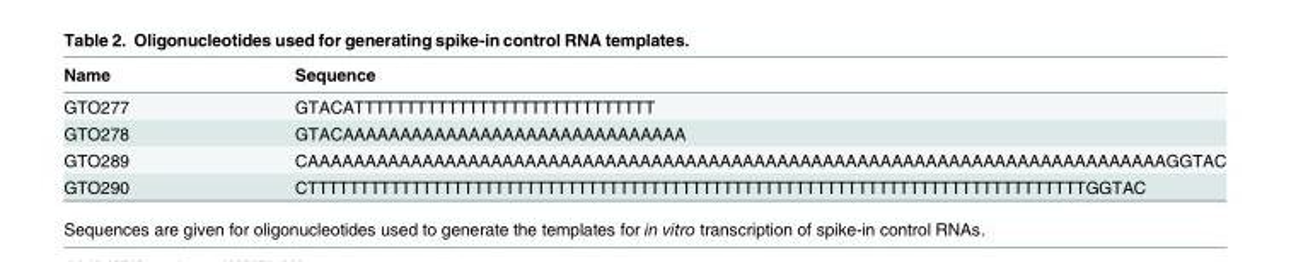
<table><thead><tr><td>Name</td><td>Sequence</td></tr></thead><tbody><tr><td>GTO277</td><td>GTACATTTTTTTTTTTTTTTTTTTTTTTTTTTTT</td></tr><tr><td>GTO278</td><td>GTACAAAAAAAAAAAAAAAAAAAAAAAAAAAAAA</td></tr><tr><td>GTO289</td><td>CAAAAAAAAAAAAAAAAAAAAAAAAAAAAAAAAAAAAAAAAAAAAAAAAAAAAAAAAAAAAAAAAAAAAAAAAAAAGGTAC</td></tr><tr><td>GTO290</td><td>CTTTTTTTTTTTTTTTTTTTTTTTTTTTTTTTTTTTTTTTTTTTTTTTTTTTTTTTTTTTTTTTTTTTTTTTTTTTGGTAC</td></tr></tbody></table>